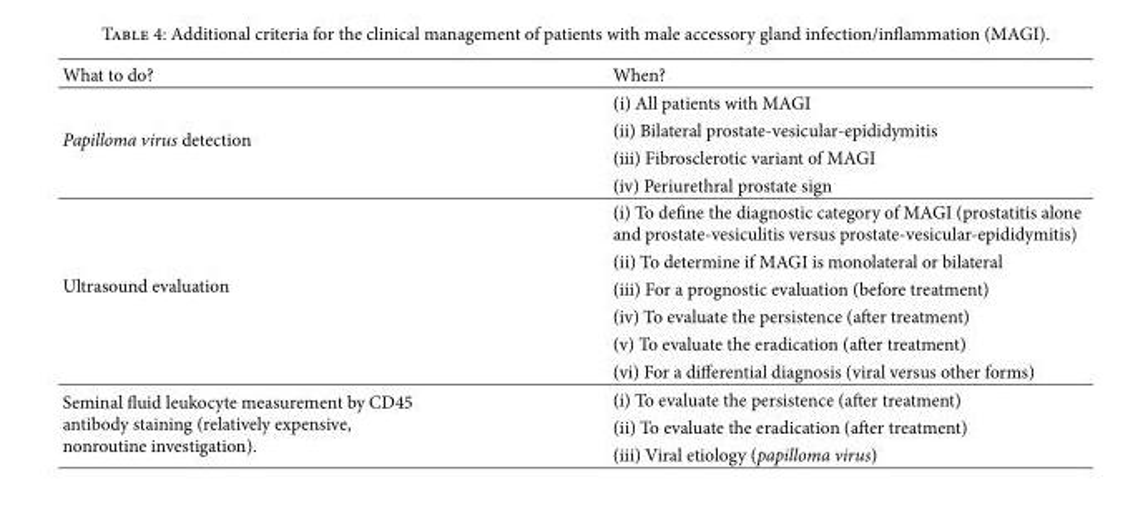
<table><thead><tr><td>What to do?</td><td>When?</td></tr></thead><tbody><tr><td rowspan="4">Papilloma virus detection</td><td>(i) All patients with MAGI</td></tr><tr><td>(ii) Bilateral prostate-vesicular-epididymitis</td></tr><tr><td>(iii) Fibrosclerotic variant of MAGI</td></tr><tr><td>(iv) Periurethral prostate sign</td></tr><tr><td rowspan="6">Ultrasound evaluation</td><td>(i) To define the diagnostic category of MAGI (prostatitis alone and prostate-vesiculitis versus prostate-vesicular-epididymitis)</td></tr><tr><td>(ii) To determine if MAGI is monolateral or bilateral</td></tr><tr><td>(iii) For a prognostic evaluation (before treatment)</td></tr><tr><td>(iv) To evaluate the persistence (after treatment)</td></tr><tr><td>(v) To evaluate the eradication (after treatment)</td></tr><tr><td>(vi) For a differential diagnosis (viral versus other forms)</td></tr><tr><td rowspan="3">Seminal fluid leukocyte measurement by CD45 antibody staining (relatively expensive, nonroutine investigation).</td><td>(i) To evaluate the persistence (after treatment)</td></tr><tr><td>(ii) To evaluate the eradication (after treatment)</td></tr><tr><td>(iii) Viral etiology (papilloma virus)</td></tr></tbody></table>